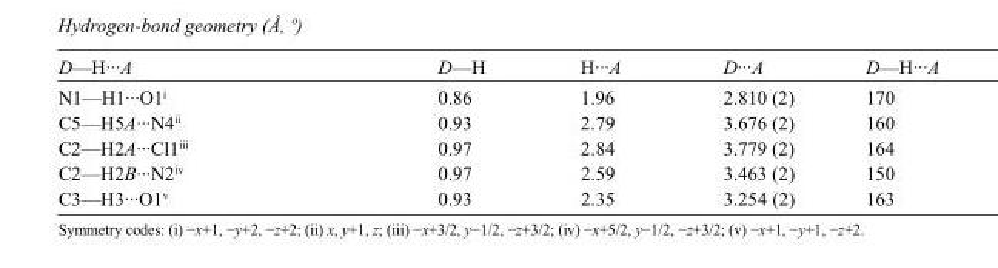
<table><tbody><tr><td>D—H···A</td><td>D—H</td><td>H···A</td><td>D···A</td><td>D—H···A</td></tr><tr><td>N1—H1···O1<sup>i</sup></td><td>0.86</td><td>1.96</td><td>2.810 (2)</td><td>170</td></tr><tr><td>C5—H5A···N4<sup>ii</sup></td><td>0.93</td><td>2.79</td><td>3.676 (2)</td><td>160</td></tr><tr><td>C2—H2A···Cl1<sup>iii</sup></td><td>0.97</td><td>2.84</td><td>3.779 (2)</td><td>164</td></tr><tr><td>C2—H2B···N2<sup>iv</sup></td><td>0.97</td><td>2.59</td><td>3.463 (2)</td><td>150</td></tr><tr><td>C3—H3···O1<sup>v</sup></td><td>0.93</td><td>2.35</td><td>3.254 (2)</td><td>163</td></tr></tbody></table>